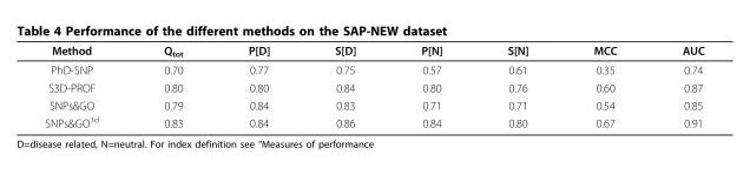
<table><thead><tr><td>Method</td><td>Q<sub>tot</sub></td><td>P[D]</td><td>S[D]</td><td>P[N]</td><td>S[N]</td><td>MCC</td><td>AUC</td></tr></thead><tbody><tr><td>PhD-SNP</td><td>0.70</td><td>0.77</td><td>0.75</td><td>0.57</td><td>0.61</td><td>0.35</td><td>0.74</td></tr><tr><td>S3D-PROF</td><td>0.80</td><td>0.80</td><td>0.84</td><td>0.80</td><td>0.76</td><td>0.60</td><td>0.87</td></tr><tr><td>SNPs&amp;GO</td><td>0.79</td><td>0.84</td><td>0.83</td><td>0.71</td><td>0.71</td><td>0.54</td><td>0.85</td></tr><tr><td>SNPs&amp;GO<sup>3d</sup></td><td>0.83</td><td>0.84</td><td>0.86</td><td>0.84</td><td>0.80</td><td>0.67</td><td>0.91</td></tr></tbody></table>